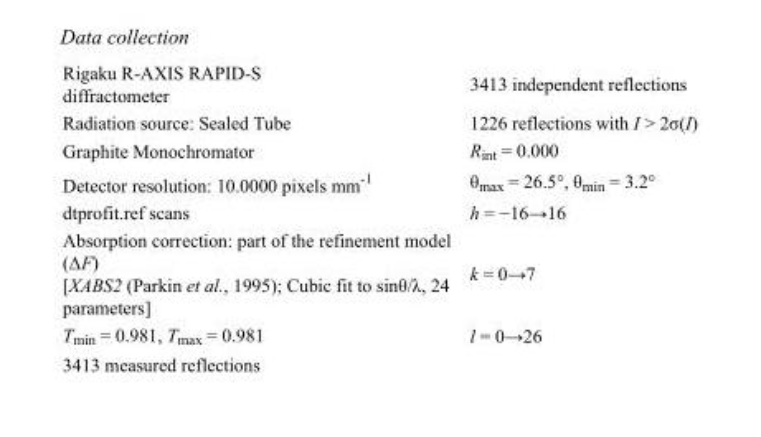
<table><tbody><tr><td>Rigaku R-AXIS RAPID-S diffractometer</td><td>3413 independent reflections</td></tr><tr><td>Radiation source: Sealed Tube</td><td>1226 reflections with I &gt; 2σ(I)</td></tr><tr><td>Graphite Monochromator</td><td>R<sub>int</sub> = 0.000</td></tr><tr><td>Detector resolution: 10.0000 pixels mm<sup>-1</sup></td><td>θ<sub>max</sub> = 26.5°, θ<sub>min</sub> = 3.2°</td></tr><tr><td>dtprofit.ref scans</td><td>h = −16→16</td></tr><tr><td>Absorption correction: part of the refinement model (ΔF) [XABS2 (Parkin et al., 1995); Cubic fit to sinθ/λ, 24 parameters]</td><td>k = 0→7</td></tr><tr><td>T<sub>min</sub> = 0.981, T<sub>max</sub> = 0.981</td><td>l = 0→26</td></tr><tr><td>3413 measured reflections</td><td></td></tr></tbody></table>